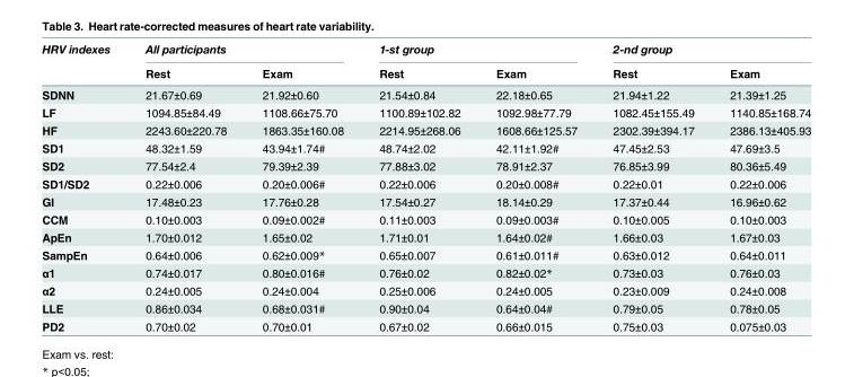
<table><thead><tr><td rowspan="2">HRV indexes</td><td colspan="2">All participants</td><td colspan="2">1-st group</td><td colspan="2">2-nd group</td></tr><tr><td>Rest</td><td>Exam</td><td>Rest</td><td>Exam</td><td>Rest</td><td>Exam</td></tr></thead><tbody><tr><td>SDNN</td><td>21.67±0.69</td><td>21.92±0.60</td><td>21.54±0.84</td><td>22.18±0.65</td><td>21.94±1.22</td><td>21.39±1.25</td></tr><tr><td>LF</td><td>1094.85±84.49</td><td>1108.66±75.70</td><td>1100.89±102.82</td><td>1092.98±77.79</td><td>1082.45±155.49</td><td>1140.85±168.74</td></tr><tr><td>HF</td><td>2243.60±220.78</td><td>1863.35±160.08</td><td>2214.95±268.06</td><td>1608.66±125.57</td><td>2302.39±394.17</td><td>2386.13±405.93</td></tr><tr><td>SD1</td><td>48.32±1.59</td><td>43.94±1.74#</td><td>48.74±2.02</td><td>42.11±1.92#</td><td>47.45±2.53</td><td>47.69±3.5</td></tr><tr><td>SD2</td><td>77.54±2.4</td><td>79.39±2.39</td><td>77.88±3.02</td><td>78.91±2.37</td><td>76.85±3.99</td><td>80.36±5.49</td></tr><tr><td>SD1/SD2</td><td>0.22±0.006</td><td>0.20±0.006#</td><td>0.22±0.006</td><td>0.20±0.008#</td><td>0.22±0.01</td><td>0.22±0.006</td></tr><tr><td>GI</td><td>17.48±0.23</td><td>17.76±0.28</td><td>17.54±0.27</td><td>18.14±0.29</td><td>17.37±0.44</td><td>16.96±0.62</td></tr><tr><td>CCM</td><td>0.10±0.003</td><td>0.09±0.002#</td><td>0.11±0.003</td><td>0.09±0.003#</td><td>0.10±0.005</td><td>0.10±0.003</td></tr><tr><td>ApEn</td><td>1.70±0.012</td><td>1.65±0.02</td><td>1.71±0.01</td><td>1.64±0.02#</td><td>1.66±0.03</td><td>1.67±0.03</td></tr><tr><td>SampEn</td><td>0.64±0.006</td><td>0.62±0.009*</td><td>0.65±0.007</td><td>0.61±0.011#</td><td>0.63±0.012</td><td>0.64±0.011</td></tr><tr><td>α1</td><td>0.74±0.017</td><td>0.80±0.016#</td><td>0.76±0.02</td><td>0.82±0.02*</td><td>0.73±0.03</td><td>0.76±0.03</td></tr><tr><td>α2</td><td>0.24±0.005</td><td>0.24±0.004</td><td>0.25±0.006</td><td>0.24±0.005</td><td>0.23±0.009</td><td>0.24±0.008</td></tr><tr><td>LLE</td><td>0.86±0.034</td><td>0.68±0.031#</td><td>0.90±0.04</td><td>0.64±0.04#</td><td>0.79±0.05</td><td>0.78±0.05</td></tr><tr><td>PD2</td><td>0.70±0.02</td><td>0.70±0.01</td><td>0.67±0.02</td><td>0.66±0.015</td><td>0.75±0.03</td><td>0.075±0.03</td></tr></tbody></table>